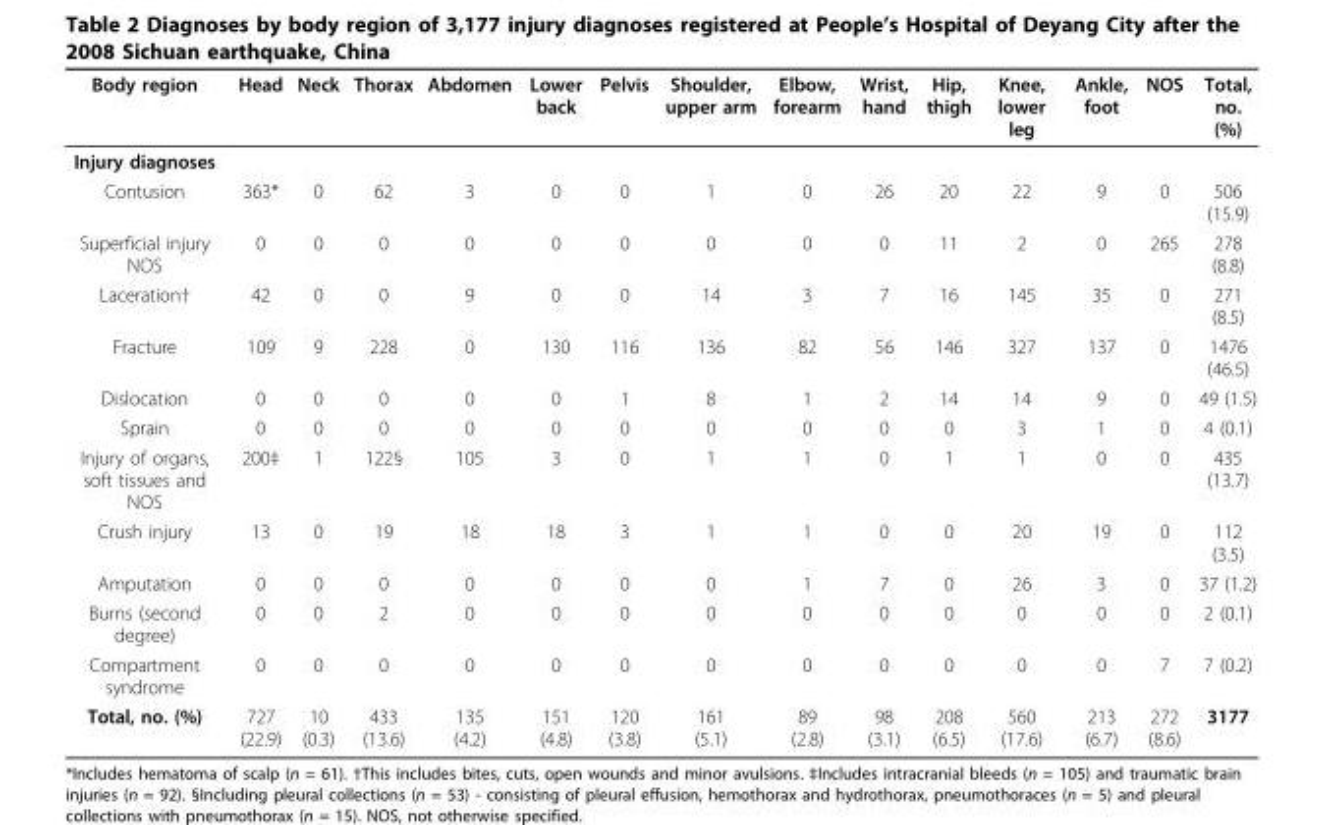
<table><thead><tr><td>Body region</td><td>Head</td><td>Neck</td><td>Thorax</td><td>Abdomen</td><td>Lower back</td><td>Pelvis</td><td>Shoulder, upper arm</td><td>Elbow, forearm</td><td>Wrist, hand</td><td>Hip, thigh</td><td>Knee, lower leg</td><td>Ankle, foot</td><td>NOS</td><td>Total, no. (%)</td></tr></thead><tbody><tr><td colspan="15">Injury diagnoses</td></tr><tr><td>Contusion</td><td>363*</td><td>0</td><td>62</td><td>3</td><td>0</td><td>0</td><td>1</td><td>0</td><td>26</td><td>20</td><td>22</td><td>9</td><td>0</td><td>506 (15.9)</td></tr><tr><td>Superficial injury NOS</td><td>0</td><td>0</td><td>0</td><td>0</td><td>0</td><td>0</td><td>0</td><td>0</td><td>0</td><td>11</td><td>2</td><td>0</td><td>265</td><td>278 (8.8)</td></tr><tr><td>Laceration†</td><td>42</td><td>0</td><td>0</td><td>9</td><td>0</td><td>0</td><td>14</td><td>3</td><td>7</td><td>16</td><td>145</td><td>35</td><td>0</td><td>271 (8.5)</td></tr><tr><td>Fracture</td><td>109</td><td>9</td><td>228</td><td>0</td><td>130</td><td>116</td><td>136</td><td>82</td><td>56</td><td>146</td><td>327</td><td>137</td><td>0</td><td>1476 (46.5)</td></tr><tr><td>Dislocation</td><td>0</td><td>0</td><td>0</td><td>0</td><td>0</td><td>1</td><td>8</td><td>1</td><td>2</td><td>14</td><td>14</td><td>9</td><td>0</td><td>49 (1.5)</td></tr><tr><td>Sprain</td><td>0</td><td>0</td><td>0</td><td>0</td><td>0</td><td>0</td><td>0</td><td>0</td><td>0</td><td>0</td><td>3</td><td>1</td><td>0</td><td>4 (0.1)</td></tr><tr><td>Injury of organs, soft tissues and NOS</td><td>200‡</td><td>1</td><td>122§</td><td>105</td><td>3</td><td>0</td><td>1</td><td>1</td><td>0</td><td>1</td><td>1</td><td>0</td><td>0</td><td>435 (13.7)</td></tr><tr><td>Crush injury</td><td>13</td><td>0</td><td>19</td><td>18</td><td>18</td><td>3</td><td>1</td><td>1</td><td>0</td><td>0</td><td>20</td><td>19</td><td>0</td><td>112 (3.5)</td></tr><tr><td>Amputation</td><td>0</td><td>0</td><td>0</td><td>0</td><td>0</td><td>0</td><td>0</td><td>1</td><td>7</td><td>0</td><td>26</td><td>3</td><td>0</td><td>37 (1.2)</td></tr><tr><td>Burns (second degree)</td><td>0</td><td>0</td><td>2</td><td>0</td><td>0</td><td>0</td><td>0</td><td>0</td><td>0</td><td>0</td><td>0</td><td>0</td><td>0</td><td>2 (0.1)</td></tr><tr><td>Compartment syndrome</td><td>0</td><td>0</td><td>0</td><td>0</td><td>0</td><td>0</td><td>0</td><td>0</td><td>0</td><td>0</td><td>0</td><td>0</td><td>7</td><td>7 (0.2)</td></tr><tr><td>Total, no. (%)</td><td>727 (22.9)</td><td>10 (0.3)</td><td>433 (13.6)</td><td>135 (4.2)</td><td>151 (4.8)</td><td>120 (3.8)</td><td>161 (5.1)</td><td>89 (2.8)</td><td>98 (3.1)</td><td>208 (6.5)</td><td>560 (17.6)</td><td>213 (6.7)</td><td>272 (8.6)</td><td>3177</td></tr></tbody></table>